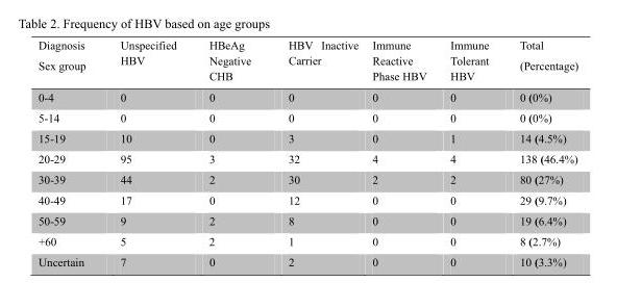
<table><thead><tr><td>Diagnosis Sex group</td><td>Unspecified HBV</td><td>HBeAg Negative CHB</td><td>HBV Inactive Carrier</td><td>Immune Reactive Phase HBV</td><td>Immune Tolerant HBV</td><td>Total (Percentage)</td></tr></thead><tbody><tr><td>0-4</td><td>0</td><td>0</td><td>0</td><td>0</td><td>0</td><td>0 (0%)</td></tr><tr><td>5-14</td><td>0</td><td>0</td><td>0</td><td>0</td><td>0</td><td>0 (0%)</td></tr><tr><td>15-19</td><td>10</td><td>0</td><td>3</td><td>0</td><td>1</td><td>14 (4.5%)</td></tr><tr><td>20-29</td><td>95</td><td>3</td><td>32</td><td>4</td><td>4</td><td>138 (46.4%)</td></tr><tr><td>30-39</td><td>44</td><td>2</td><td>30</td><td>2</td><td>2</td><td>80 (27%)</td></tr><tr><td>40-49</td><td>17</td><td>0</td><td>12</td><td>0</td><td>0</td><td>29 (9.7%)</td></tr><tr><td>50-59</td><td>9</td><td>2</td><td>8</td><td>0</td><td>0</td><td>19 (6.4%)</td></tr><tr><td>+60</td><td>5</td><td>2</td><td>1</td><td>0</td><td>0</td><td>8 (2.7%)</td></tr><tr><td>Uncertain</td><td>7</td><td>0</td><td>2</td><td>0</td><td>0</td><td>10 (3.3%)</td></tr></tbody></table>